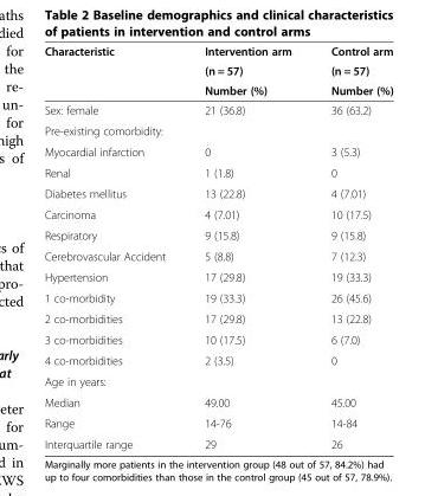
<table><thead><tr><td rowspan="3">Characteristic</td><td rowspan="3">Intervention arm (n = 57) Number (%)</td><td rowspan="3">Control arm (n = 57) Number (%)</td></tr><tr></tr><tr></tr></thead><tbody><tr><td>Sex: female</td><td>21 (36.8)</td><td>36 (63.2)</td></tr><tr><td colspan="3">Pre-existing comorbidity:</td></tr><tr><td>Myocardial infarction</td><td>0</td><td>3 (5.3)</td></tr><tr><td>Renal</td><td>1 (1.8)</td><td>0</td></tr><tr><td>Diabetes mellitus</td><td>13 (22.8)</td><td>4 (7.01)</td></tr><tr><td>Carcinoma</td><td>4 (7.01)</td><td>10 (17.5)</td></tr><tr><td>Respiratory</td><td>9 (15.8)</td><td>9 (15.8)</td></tr><tr><td>Cerebrovascular Accident</td><td>5 (8.8)</td><td>7 (12.3)</td></tr><tr><td>Hypertension</td><td>17 (29.8)</td><td>19 (33.3)</td></tr><tr><td>1 co-morbidity</td><td>19 (33.3)</td><td>26 (45.6)</td></tr><tr><td>2 co-morbidities</td><td>17 (29.8)</td><td>13 (22.8)</td></tr><tr><td>3 co-morbidities</td><td>10 (17.5)</td><td>6 (7.0)</td></tr><tr><td>4 co-morbidities</td><td>2 (3.5)</td><td>0</td></tr><tr><td colspan="3">Age in years:</td></tr><tr><td>Median</td><td>49.00</td><td>45.00</td></tr><tr><td>Range</td><td>14-76</td><td>14-84</td></tr><tr><td>Interquartile range</td><td>29</td><td>26</td></tr></tbody></table>